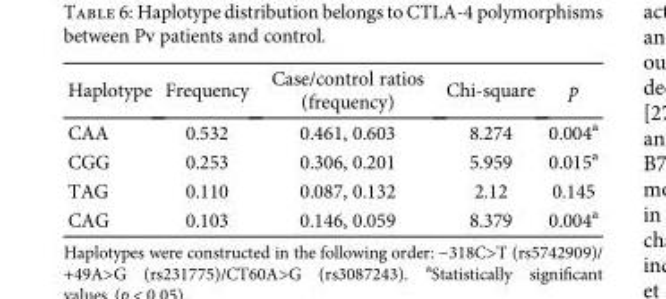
<table><thead><tr><td>Haplotype</td><td>Frequency</td><td>Case/control ratios (frequency)</td><td>Chi-square</td><td>p</td></tr></thead><tbody><tr><td>CAA</td><td>0.532</td><td>0.461, 0.603</td><td>8.274</td><td>0.004<sup>a</sup></td></tr><tr><td>CGG</td><td>0.253</td><td>0.306, 0.201</td><td>5.959</td><td>0.015<sup>a</sup></td></tr><tr><td>TAG</td><td>0.110</td><td>0.087, 0.132</td><td>2.12</td><td>0.145</td></tr><tr><td>CAG</td><td>0.103</td><td>0.146, 0.059</td><td>8.379</td><td>0.004<sup>a</sup></td></tr></tbody></table>